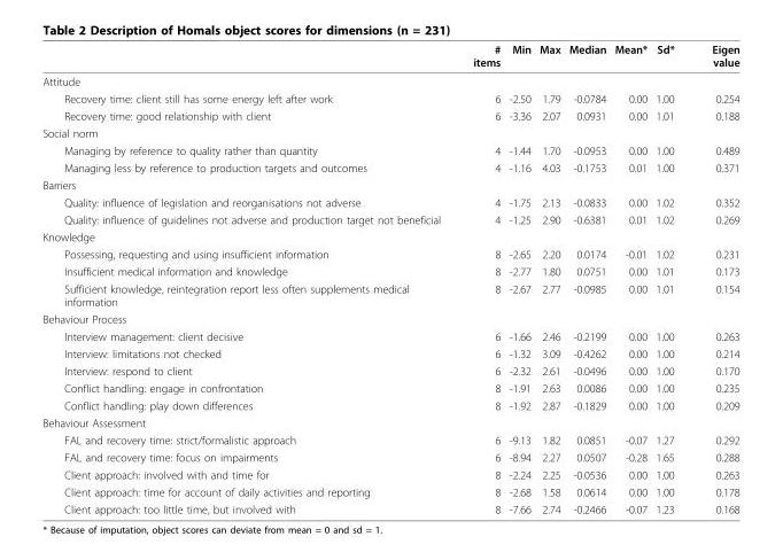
<table><thead><tr><td></td><td># items</td><td>Min</td><td>Max</td><td>Median</td><td>Mean*</td><td>Sd*</td><td>Eigen value</td></tr></thead><tbody><tr><td colspan="8">Attitude</td></tr><tr><td>Recovery time: client still has some energy left after work</td><td>6</td><td>-2.50</td><td>1.79</td><td>-0.0784</td><td>0.00</td><td>1.00</td><td>0.254</td></tr><tr><td>Recovery time: good relationship with client</td><td>6</td><td>-3.36</td><td>2.07</td><td>0.0931</td><td>0.00</td><td>1.01</td><td>0.188</td></tr><tr><td colspan="8">Social norm</td></tr><tr><td>Managing by reference to quality rather than quantity</td><td>4</td><td>-1.44</td><td>1.70</td><td>-0.0953</td><td>0.00</td><td>1.00</td><td>0.489</td></tr><tr><td>Managing less by reference to production targets and outcomes</td><td>4</td><td>-1.16</td><td>4.03</td><td>-0.1753</td><td>0.01</td><td>1.00</td><td>0.371</td></tr><tr><td colspan="8">Barriers</td></tr><tr><td>Quality: influence of legislation and reorganisations not adverse</td><td>4</td><td>-1.75</td><td>2.13</td><td>-0.0833</td><td>0.00</td><td>1.02</td><td>0.352</td></tr><tr><td>Quality: influence of guidelines not adverse and production target not beneficial</td><td>4</td><td>-1.25</td><td>2.90</td><td>-0.6381</td><td>0.01</td><td>1.02</td><td>0.269</td></tr><tr><td colspan="8">Knowledge</td></tr><tr><td>Possessing, requesting and using insufficient information</td><td>8</td><td>-2.65</td><td>2.20</td><td>0.0174</td><td>-0.01</td><td>1.02</td><td>0.231</td></tr><tr><td>Insufficient medical information and knowledge</td><td>8</td><td>-2.77</td><td>1.80</td><td>0.0751</td><td>0.00</td><td>1.01</td><td>0.173</td></tr><tr><td>Sufficient knowledge, reintegration report less often supplements medical information</td><td>8</td><td>-2.67</td><td>2.77</td><td>-0.0985</td><td>0.00</td><td>1.01</td><td>0.154</td></tr><tr><td colspan="8">Behaviour Process</td></tr><tr><td>Interview management: client decisive</td><td>6</td><td>-1.66</td><td>2.46</td><td>-0.2199</td><td>0.00</td><td>1.00</td><td>0.263</td></tr><tr><td>Interview: limitations not checked</td><td>6</td><td>-1.32</td><td>3.09</td><td>-0.4262</td><td>0.00</td><td>1.00</td><td>0.214</td></tr><tr><td>Interview: respond to client</td><td>6</td><td>-2.32</td><td>2.61</td><td>-0.0496</td><td>0.00</td><td>1.00</td><td>0.170</td></tr><tr><td>Conflict handling: engage in confrontation</td><td>8</td><td>-1.91</td><td>2.63</td><td>0.0086</td><td>0.00</td><td>1.00</td><td>0.235</td></tr><tr><td>Conflict handling: play down differences</td><td>8</td><td>-1.92</td><td>2.87</td><td>-0.1829</td><td>0.00</td><td>1.00</td><td>0.209</td></tr><tr><td colspan="8">Behaviour Assessment</td></tr><tr><td>FAL and recovery time: strict/formalistic approach</td><td>6</td><td>-9.13</td><td>1.82</td><td>0.0851</td><td>-0.07</td><td>1.27</td><td>0.292</td></tr><tr><td>FAL and recovery time: focus on impairments</td><td>6</td><td>-8.94</td><td>2.27</td><td>0.0507</td><td>-0.28</td><td>1.65</td><td>0.288</td></tr><tr><td>Client approach: involved with and time for</td><td>8</td><td>-2.24</td><td>2.25</td><td>-0.0536</td><td>0.00</td><td>1.00</td><td>0.263</td></tr><tr><td>Client approach: time for account of daily activities and reporting</td><td>8</td><td>-2.68</td><td>1.58</td><td>0.0614</td><td>0.00</td><td>1.00</td><td>0.178</td></tr><tr><td>Client approach: too little time, but involved with</td><td>8</td><td>-7.66</td><td>2.74</td><td>-0.2466</td><td>-0.07</td><td>1.23</td><td>0.168</td></tr></tbody></table>